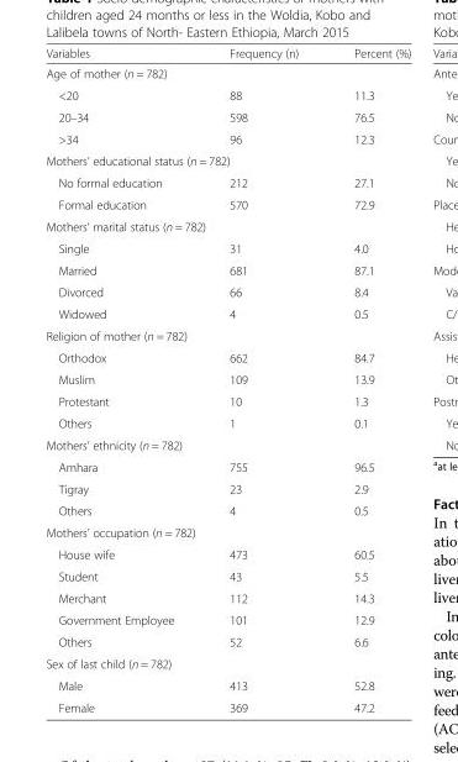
<table><thead><tr><td>Variables</td><td>Frequency (n)</td><td>Percent (%)</td></tr></thead><tbody><tr><td colspan="3">Age of mother (n = 782)</td></tr><tr><td>&lt;20</td><td>88</td><td>11.3</td></tr><tr><td>20–34</td><td>598</td><td>76.5</td></tr><tr><td>&gt;34</td><td>96</td><td>12.3</td></tr><tr><td colspan="3">Mothers’ educational status (n = 782)</td></tr><tr><td>No formal education</td><td>212</td><td>27.1</td></tr><tr><td>Formal education</td><td>570</td><td>72.9</td></tr><tr><td colspan="3">Mothers’ marital status (n = 782)</td></tr><tr><td>Single</td><td>31</td><td>4.0</td></tr><tr><td>Married</td><td>681</td><td>87.1</td></tr><tr><td>Divorced</td><td>66</td><td>8.4</td></tr><tr><td>Widowed</td><td>4</td><td>0.5</td></tr><tr><td colspan="3">Religion of mother (n = 782)</td></tr><tr><td>Orthodox</td><td>662</td><td>84.7</td></tr><tr><td>Muslim</td><td>109</td><td>13.9</td></tr><tr><td>Protestant</td><td>10</td><td>1.3</td></tr><tr><td>Others</td><td>1</td><td>0.1</td></tr><tr><td colspan="3">Mothers’ ethnicity (n = 782)</td></tr><tr><td>Amhara</td><td>755</td><td>96.5</td></tr><tr><td>Tigray</td><td>23</td><td>2.9</td></tr><tr><td>Others</td><td>4</td><td>0.5</td></tr><tr><td colspan="3">Mothers’ occupation (n = 782)</td></tr><tr><td>House wife</td><td>473</td><td>60.5</td></tr><tr><td>Student</td><td>43</td><td>5.5</td></tr><tr><td>Merchant</td><td>112</td><td>14.3</td></tr><tr><td>Government Employee</td><td>101</td><td>12.9</td></tr><tr><td>Others</td><td>52</td><td>6.6</td></tr><tr><td colspan="3">Sex of last child (n = 782)</td></tr><tr><td>Male</td><td>413</td><td>52.8</td></tr><tr><td>Female</td><td>369</td><td>47.2</td></tr></tbody></table>